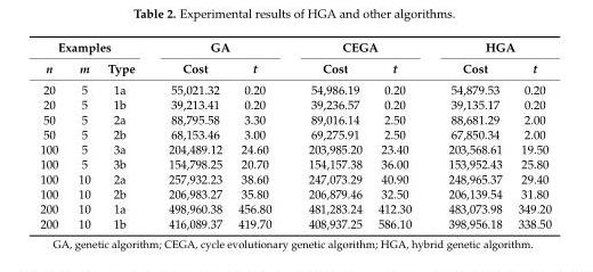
<table><thead><tr><td colspan="3">Examples</td><td colspan="2">GA</td><td colspan="2">CEGA</td><td colspan="2">HGA</td></tr><tr><td>n</td><td>m</td><td>Type</td><td>Cost</td><td>t</td><td>Cost</td><td>t</td><td>Cost</td><td>t</td></tr></thead><tbody><tr><td>20</td><td>5</td><td>1a</td><td>55,021.32</td><td>0.20</td><td>54,986.19</td><td>0.20</td><td>54,879.53</td><td>0.20</td></tr><tr><td>20</td><td>5</td><td>1b</td><td>39,213.41</td><td>0.20</td><td>39,236.57</td><td>0.20</td><td>39,135.17</td><td>0.20</td></tr><tr><td>50</td><td>5</td><td>2a</td><td>88,795.58</td><td>3.30</td><td>89,016.14</td><td>2.50</td><td>88,681.29</td><td>2.00</td></tr><tr><td>50</td><td>5</td><td>2b</td><td>68,153.46</td><td>3.00</td><td>69,275.91</td><td>2.50</td><td>67,850.34</td><td>2.00</td></tr><tr><td>100</td><td>5</td><td>3a</td><td>204,489.12</td><td>24.60</td><td>203,985.20</td><td>23.40</td><td>203,568.61</td><td>19.50</td></tr><tr><td>100</td><td>5</td><td>3b</td><td>154,798.25</td><td>20.70</td><td>154,157.38</td><td>36.00</td><td>153,952.43</td><td>25.80</td></tr><tr><td>100</td><td>10</td><td>2a</td><td>257,932.23</td><td>38.60</td><td>247,073.29</td><td>40.90</td><td>248,965.37</td><td>29.40</td></tr><tr><td>100</td><td>10</td><td>2b</td><td>206,983.27</td><td>35.80</td><td>206,879.46</td><td>32.50</td><td>206,139.54</td><td>31.80</td></tr><tr><td>200</td><td>10</td><td>1a</td><td>498,960.38</td><td>456.80</td><td>481,283.24</td><td>412.30</td><td>483,073.98</td><td>349.20</td></tr><tr><td>200</td><td>10</td><td>1b</td><td>416,089.37</td><td>419.70</td><td>408,937.25</td><td>586.10</td><td>398,956.18</td><td>338.50</td></tr></tbody></table>